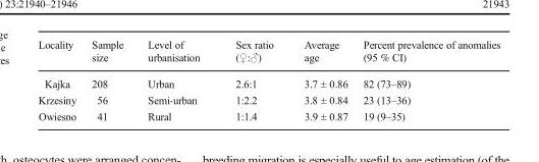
<table><thead><tr><td>Locality</td><td>Sample size</td><td>Level of urbanisation</td><td>Sex ratio (♀:♂)</td><td>Average age</td><td>Percent prevalence of anomalies (95 % CI)</td></tr></thead><tbody><tr><td>Kajka</td><td>208</td><td>Urban</td><td>2.6:1</td><td>3.7 ± 0.86</td><td>82 (73–89)</td></tr><tr><td>Krzesiny</td><td>56</td><td>Semi-urban</td><td>1:2.2</td><td>3.8 ± 0.84</td><td>23 (13–36)</td></tr><tr><td>Owiesno</td><td>41</td><td>Rural</td><td>1:1.4</td><td>3.9 ± 0.87</td><td>19 (9–35)</td></tr></tbody></table>